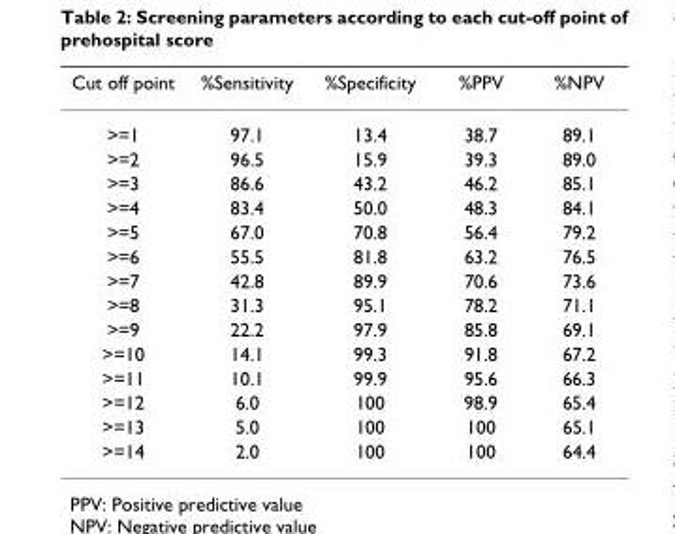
<table><thead><tr><td>Cut off point</td><td>%Sensitivity</td><td>%Specificity</td><td>%PPV</td><td>%NPV</td></tr></thead><tbody><tr><td>&gt;=1</td><td>97.1</td><td>13.4</td><td>38.7</td><td>89.1</td></tr><tr><td>&gt;=2</td><td>96.5</td><td>15.9</td><td>39.3</td><td>89.0</td></tr><tr><td>&gt;=3</td><td>86.6</td><td>43.2</td><td>46.2</td><td>85.1</td></tr><tr><td>&gt;=4</td><td>83.4</td><td>50.0</td><td>48.3</td><td>84.1</td></tr><tr><td>&gt;=5</td><td>67.0</td><td>70.8</td><td>56.4</td><td>79.2</td></tr><tr><td>&gt;=6</td><td>55.5</td><td>81.8</td><td>63.2</td><td>76.5</td></tr><tr><td>&gt;=7</td><td>42.8</td><td>89.9</td><td>70.6</td><td>73.6</td></tr><tr><td>&gt;=8</td><td>31.3</td><td>95.1</td><td>78.2</td><td>71.1</td></tr><tr><td>&gt;=9</td><td>22.2</td><td>97.9</td><td>85.8</td><td>69.1</td></tr><tr><td>&gt;=10</td><td>14.1</td><td>99.3</td><td>91.8</td><td>67.2</td></tr><tr><td>&gt;=11</td><td>10.1</td><td>99.9</td><td>95.6</td><td>66.3</td></tr><tr><td>&gt;=12</td><td>6.0</td><td>100</td><td>98.9</td><td>65.4</td></tr><tr><td>&gt;=13</td><td>5.0</td><td>100</td><td>100</td><td>65.1</td></tr><tr><td>&gt;=14</td><td>2.0</td><td>100</td><td>100</td><td>64.4</td></tr></tbody></table>